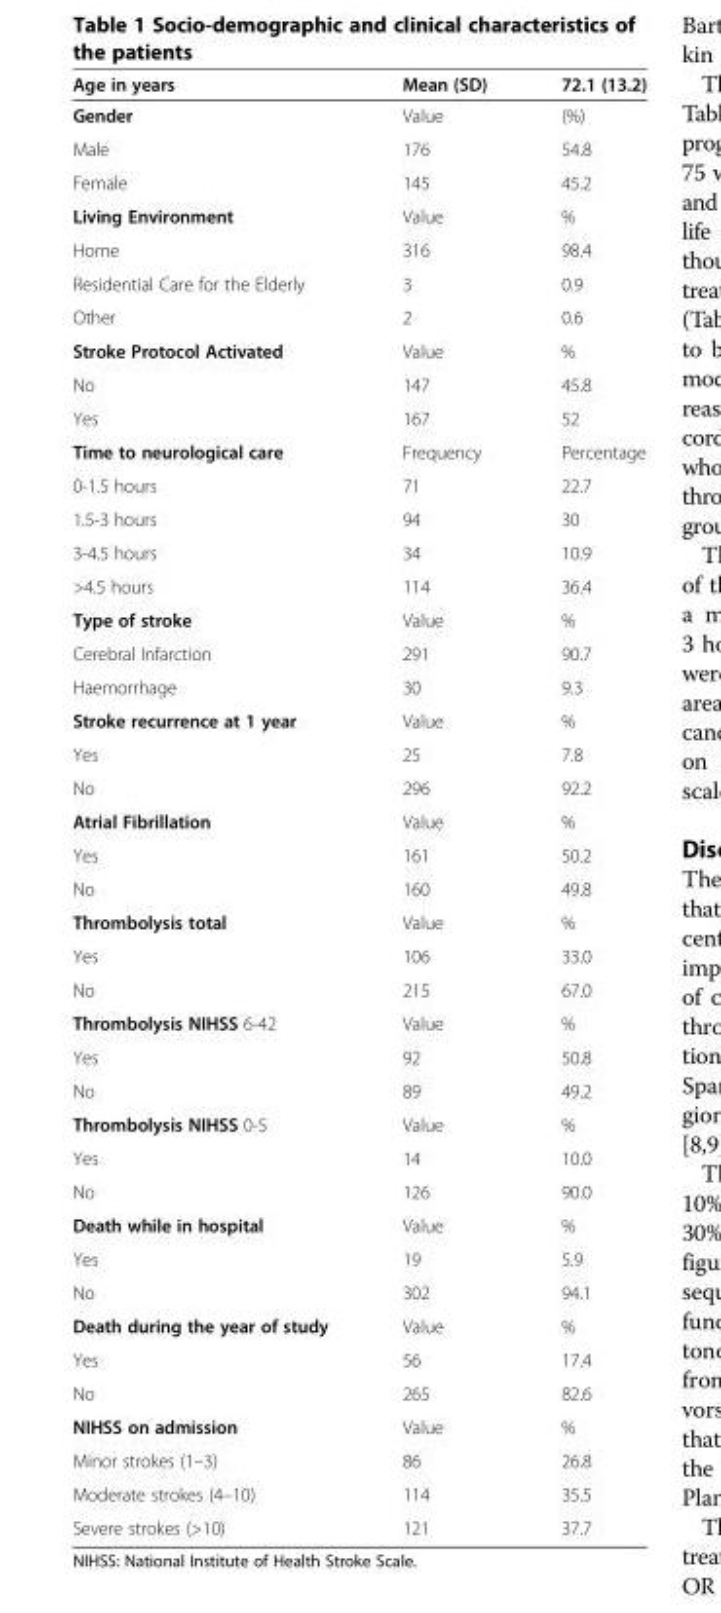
<table><thead><tr><td>Age in years</td><td>Mean (SD)</td><td>72.1 (13.2)</td></tr></thead><tbody><tr><td>Gender</td><td>Value</td><td>(%)</td></tr><tr><td>Male</td><td>176</td><td>54.8</td></tr><tr><td>Female</td><td>145</td><td>45.2</td></tr><tr><td>Living Environment</td><td>Value</td><td>%</td></tr><tr><td>Home</td><td>316</td><td>98.4</td></tr><tr><td>Residential Care for the Elderly</td><td>3</td><td>0.9</td></tr><tr><td>Other</td><td>2</td><td>0.6</td></tr><tr><td>Stroke Protocol Activated</td><td>Value</td><td>%</td></tr><tr><td>No</td><td>147</td><td>45.8</td></tr><tr><td>Yes</td><td>167</td><td>52</td></tr><tr><td>Time to neurological care</td><td>Frequency</td><td>Percentage</td></tr><tr><td>0-1.5 hours</td><td>71</td><td>22.7</td></tr><tr><td>1.5-3 hours</td><td>94</td><td>30</td></tr><tr><td>3-4.5 hours</td><td>34</td><td>10.9</td></tr><tr><td>&gt;4.5 hours</td><td>114</td><td>36.4</td></tr><tr><td>Type of stroke</td><td>Value</td><td>%</td></tr><tr><td>Cerebral Infarction</td><td>291</td><td>90.7</td></tr><tr><td>Haemorrhage</td><td>30</td><td>9.3</td></tr><tr><td>Stroke recurrence at 1 year</td><td>Value</td><td>%</td></tr><tr><td>Yes</td><td>25</td><td>7.8</td></tr><tr><td>No</td><td>296</td><td>92.2</td></tr><tr><td>Atrial Fibrillation</td><td>Value</td><td>%</td></tr><tr><td>Yes</td><td>161</td><td>50.2</td></tr><tr><td>No</td><td>160</td><td>49.8</td></tr><tr><td>Thrombolysis total</td><td>Value</td><td>%</td></tr><tr><td>Yes</td><td>106</td><td>33.0</td></tr><tr><td>No</td><td>215</td><td>67.0</td></tr><tr><td>Thrombolysis NIHSS 6-42</td><td>Value</td><td>%</td></tr><tr><td>Yes</td><td>92</td><td>50.8</td></tr><tr><td>No</td><td>89</td><td>49.2</td></tr><tr><td>Thrombolysis NIHSS 0-5</td><td>Value</td><td>%</td></tr><tr><td>Yes</td><td>14</td><td>10.0</td></tr><tr><td>No</td><td>126</td><td>90.0</td></tr><tr><td>Death while in hospital</td><td>Value</td><td>%</td></tr><tr><td>Yes</td><td>19</td><td>5.9</td></tr><tr><td>No</td><td>302</td><td>94.1</td></tr><tr><td>Death during the year of study</td><td>Value</td><td>%</td></tr><tr><td>Yes</td><td>56</td><td>17.4</td></tr><tr><td>No</td><td>265</td><td>82.6</td></tr><tr><td>NIHSS on admission</td><td>Value</td><td>%</td></tr><tr><td>Minor strokes (1–3)</td><td>86</td><td>26.8</td></tr><tr><td>Moderate strokes (4–10)</td><td>114</td><td>35.5</td></tr><tr><td>Severe strokes (&gt;10)</td><td>121</td><td>37.7</td></tr></tbody></table>